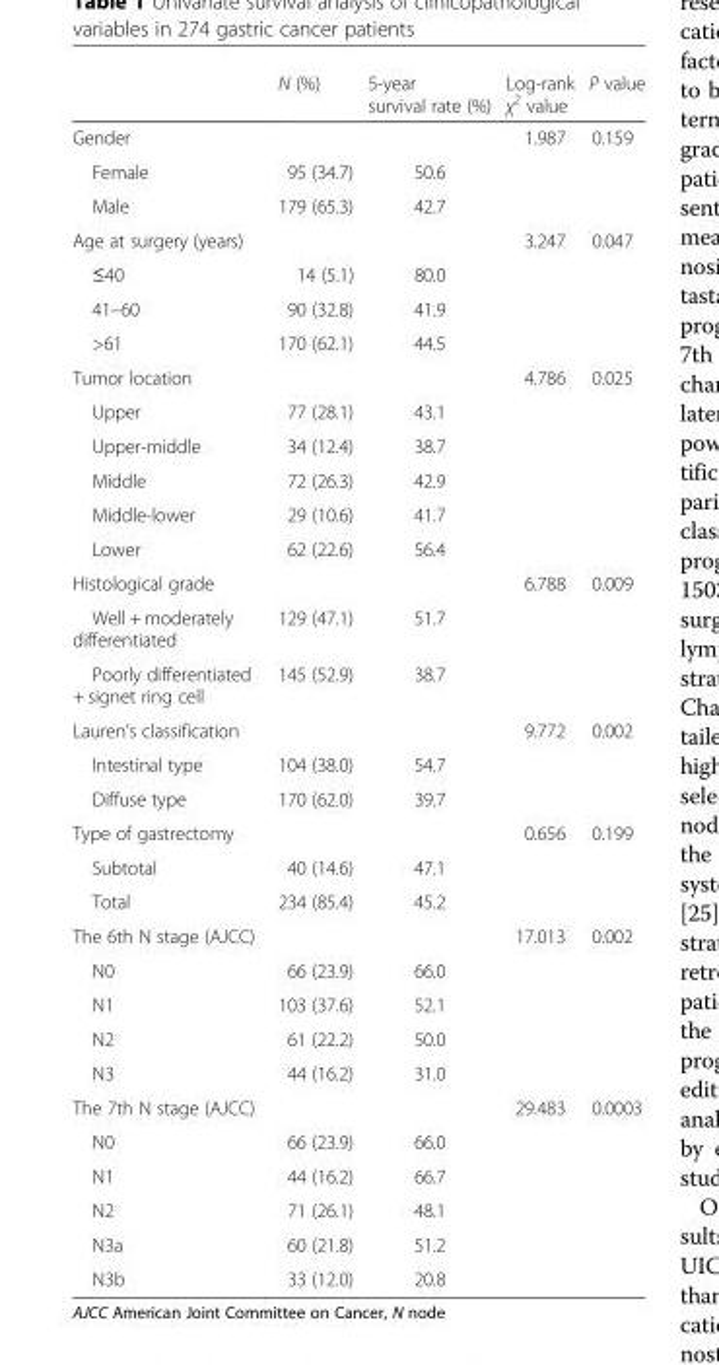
<table><thead><tr><td></td><td>N (%)</td><td>5-year survival rate (%)</td><td>Log-rank χ<sup>2</sup> value</td><td>P value</td></tr></thead><tbody><tr><td>Gender</td><td></td><td></td><td>1.987</td><td>0.159</td></tr><tr><td>Female</td><td>95 (34.7)</td><td>50.6</td><td></td><td></td></tr><tr><td>Male</td><td>179 (65.3)</td><td>42.7</td><td></td><td></td></tr><tr><td>Age at surgery (years)</td><td></td><td></td><td>3.247</td><td>0.047</td></tr><tr><td>≤40</td><td>14 (5.1)</td><td>80.0</td><td></td><td></td></tr><tr><td>41–60</td><td>90 (32.8)</td><td>41.9</td><td></td><td></td></tr><tr><td>&gt;61</td><td>170 (62.1)</td><td>44.5</td><td></td><td></td></tr><tr><td>Tumor location</td><td></td><td></td><td>4.786</td><td>0.025</td></tr><tr><td>Upper</td><td>77 (28.1)</td><td>43.1</td><td></td><td></td></tr><tr><td>Upper-middle</td><td>34 (12.4)</td><td>38.7</td><td></td><td></td></tr><tr><td>Middle</td><td>72 (26.3)</td><td>42.9</td><td></td><td></td></tr><tr><td>Middle-lower</td><td>29 (10.6)</td><td>41.7</td><td></td><td></td></tr><tr><td>Lower</td><td>62 (22.6)</td><td>56.4</td><td></td><td></td></tr><tr><td>Histological grade</td><td></td><td></td><td>6.788</td><td>0.009</td></tr><tr><td>Well + moderately differentiated</td><td>129 (47.1)</td><td>51.7</td><td></td><td></td></tr><tr><td>Poorly differentiated + signet ring cell</td><td>145 (52.9)</td><td>38.7</td><td></td><td></td></tr><tr><td>Lauren’s classification</td><td></td><td></td><td>9.772</td><td>0.002</td></tr><tr><td>Intestinal type</td><td>104 (38.0)</td><td>54.7</td><td></td><td></td></tr><tr><td>Diffuse type</td><td>170 (62.0)</td><td>39.7</td><td></td><td></td></tr><tr><td>Type of gastrectomy</td><td></td><td></td><td>0.656</td><td>0.199</td></tr><tr><td>Subtotal</td><td>40 (14.6)</td><td>47.1</td><td></td><td></td></tr><tr><td>Total</td><td>234 (85.4)</td><td>45.2</td><td></td><td></td></tr><tr><td>The 6th N stage (AJCC)</td><td></td><td></td><td>17.013</td><td>0.002</td></tr><tr><td>N0</td><td>66 (23.9)</td><td>66.0</td><td></td><td></td></tr><tr><td>N1</td><td>103 (37.6)</td><td>52.1</td><td></td><td></td></tr><tr><td>N2</td><td>61 (22.2)</td><td>50.0</td><td></td><td></td></tr><tr><td>N3</td><td>44 (16.2)</td><td>31.0</td><td></td><td></td></tr><tr><td>The 7th N stage (AJCC)</td><td></td><td></td><td>29.483</td><td>0.0003</td></tr><tr><td>N0</td><td>66 (23.9)</td><td>66.0</td><td></td><td></td></tr><tr><td>N1</td><td>44 (16.2)</td><td>66.7</td><td></td><td></td></tr><tr><td>N2</td><td>71 (26.1)</td><td>48.1</td><td></td><td></td></tr><tr><td>N3a</td><td>60 (21.8)</td><td>51.2</td><td></td><td></td></tr><tr><td>N3b</td><td>33 (12.0)</td><td>20.8</td><td></td><td></td></tr></tbody></table>